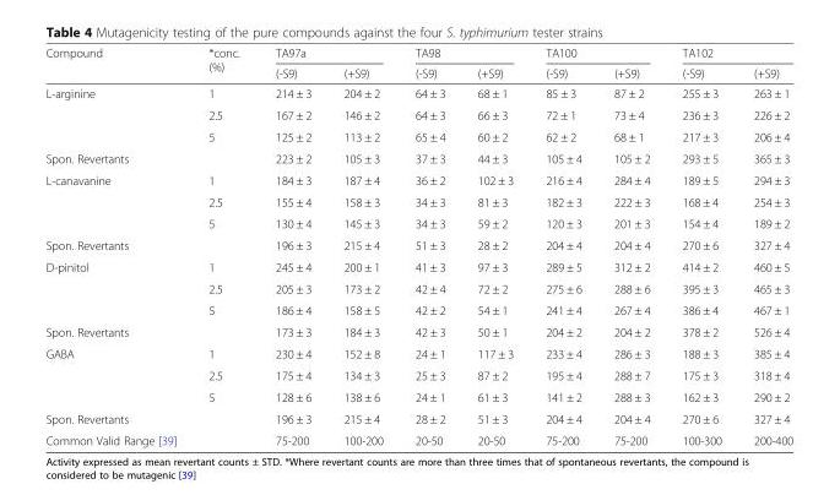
<table><thead><tr><td rowspan="2">Compound</td><td rowspan="2">*conc. (%)</td><td colspan="2">TA97a</td><td colspan="2">TA98</td><td colspan="2">TA100</td><td colspan="2">TA102</td></tr><tr><td>(-S9)</td><td>(+S9)</td><td>(-S9)</td><td>(+S9)</td><td>(-S9)</td><td>(+S9)</td><td>(-S9)</td><td>(+S9)</td></tr></thead><tbody><tr><td rowspan="3">L-arginine</td><td>1</td><td>214 ± 3</td><td>204 ± 2</td><td>64 ± 3</td><td>68 ± 1</td><td>85 ± 3</td><td>87 ± 2</td><td>255 ± 3</td><td>263 ± 1</td></tr><tr><td>2.5</td><td>167 ± 2</td><td>146 ± 2</td><td>64 ± 3</td><td>66 ± 3</td><td>72 ± 1</td><td>73 ± 4</td><td>236 ± 3</td><td>226 ± 2</td></tr><tr><td>5</td><td>125 ± 2</td><td>113 ± 2</td><td>65 ± 4</td><td>60 ± 2</td><td>62 ± 2</td><td>68 ± 1</td><td>217 ± 3</td><td>206 ± 4</td></tr><tr><td>Spon. Revertants</td><td></td><td>223 ± 2</td><td>105 ± 3</td><td>37 ± 3</td><td>44 ± 3</td><td>105 ± 4</td><td>105 ± 2</td><td>293 ± 5</td><td>365 ± 3</td></tr><tr><td rowspan="3">L-canavanine</td><td>1</td><td>184 ± 3</td><td>187 ± 4</td><td>36 ± 2</td><td>102 ± 3</td><td>216 ± 4</td><td>284 ± 4</td><td>189 ± 5</td><td>294 ± 3</td></tr><tr><td>2.5</td><td>155 ± 4</td><td>158 ± 3</td><td>34 ± 3</td><td>81 ± 3</td><td>182 ± 3</td><td>222 ± 3</td><td>168 ± 4</td><td>254 ± 3</td></tr><tr><td>5</td><td>130 ± 4</td><td>145 ± 3</td><td>34 ± 3</td><td>59 ± 2</td><td>120 ± 3</td><td>201 ± 3</td><td>154 ± 4</td><td>189 ± 2</td></tr><tr><td>Spon. Revertants</td><td></td><td>196 ± 3</td><td>215 ± 4</td><td>51 ± 3</td><td>28 ± 2</td><td>204 ± 4</td><td>204 ± 4</td><td>270 ± 6</td><td>327 ± 4</td></tr><tr><td rowspan="3">D-pinitol</td><td>1</td><td>245 ± 4</td><td>200 ± 1</td><td>41 ± 3</td><td>97 ± 3</td><td>289 ± 5</td><td>312 ± 2</td><td>414 ± 2</td><td>460 ± 5</td></tr><tr><td>2.5</td><td>205 ± 3</td><td>173 ± 2</td><td>42 ± 4</td><td>72 ± 2</td><td>275 ± 6</td><td>288 ± 6</td><td>395 ± 3</td><td>465 ± 3</td></tr><tr><td>5</td><td>186 ± 4</td><td>158 ± 5</td><td>42 ± 2</td><td>54 ± 1</td><td>241 ± 4</td><td>267 ± 4</td><td>386 ± 4</td><td>467 ± 1</td></tr><tr><td>Spon. Revertants</td><td></td><td>173 ± 3</td><td>184 ± 3</td><td>42 ± 3</td><td>50 ± 1</td><td>204 ± 2</td><td>204 ± 2</td><td>378 ± 2</td><td>526 ± 4</td></tr><tr><td rowspan="3">GABA</td><td>1</td><td>230 ± 4</td><td>152 ± 8</td><td>24 ± 1</td><td>117 ± 3</td><td>233 ± 4</td><td>286 ± 3</td><td>188 ± 3</td><td>385 ± 4</td></tr><tr><td>2.5</td><td>175 ± 4</td><td>134 ± 3</td><td>25 ± 3</td><td>87 ± 2</td><td>195 ± 4</td><td>288 ± 7</td><td>175 ± 3</td><td>318 ± 4</td></tr><tr><td>5</td><td>128 ± 6</td><td>138 ± 6</td><td>24 ± 1</td><td>61 ± 3</td><td>141 ± 2</td><td>288 ± 3</td><td>162 ± 3</td><td>290 ± 2</td></tr><tr><td>Spon. Revertants</td><td></td><td>196 ± 3</td><td>215 ± 4</td><td>28 ± 2</td><td>51 ± 3</td><td>204 ± 4</td><td>204 ± 4</td><td>270 ± 6</td><td>327 ± 4</td></tr><tr><td>Common Valid Range [39]</td><td></td><td>75-200</td><td>100-200</td><td>20-50</td><td>20-50</td><td>75-200</td><td>75-200</td><td>100-300</td><td>200-400</td></tr></tbody></table>